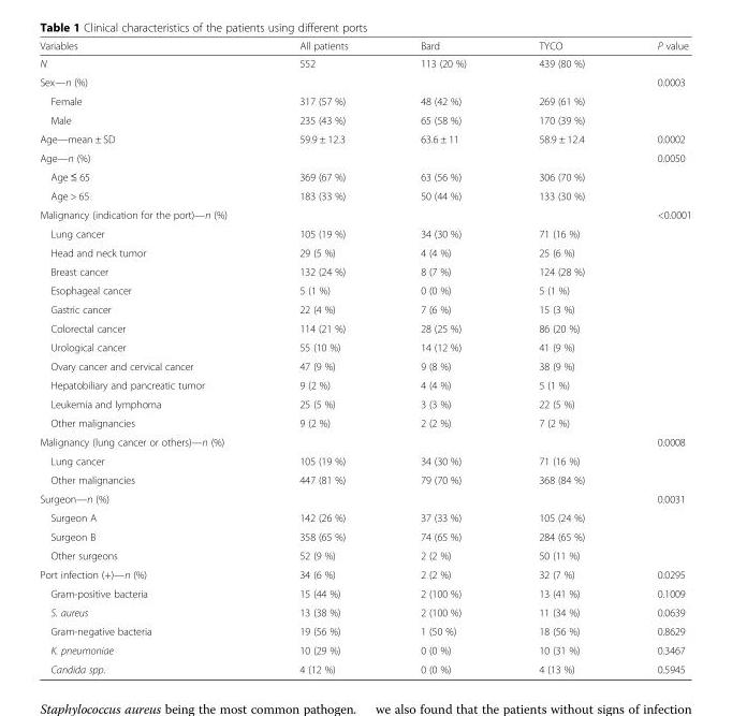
<table><thead><tr><td>Variables</td><td>All patients</td><td>Bard</td><td>TYCO</td><td>P value</td></tr></thead><tbody><tr><td>N</td><td>552</td><td>113 (20 %)</td><td>439 (80 %)</td><td></td></tr><tr><td>Sex—n (%)</td><td></td><td></td><td></td><td>0.0003</td></tr><tr><td>Female</td><td>317 (57 %)</td><td>48 (42 %)</td><td>269 (61 %)</td><td></td></tr><tr><td>Male</td><td>235 (43 %)</td><td>65 (58 %)</td><td>170 (39 %)</td><td></td></tr><tr><td>Age—mean ± SD</td><td>59.9 ± 12.3</td><td>63.6 ± 11</td><td>58.9 ± 12.4</td><td>0.0002</td></tr><tr><td>Age—n (%)</td><td></td><td></td><td></td><td>0.0050</td></tr><tr><td>Age ≤ 65</td><td>369 (67 %)</td><td>63 (56 %)</td><td>306 (70 %)</td><td></td></tr><tr><td>Age &gt; 65</td><td>183 (33 %)</td><td>50 (44 %)</td><td>133 (30 %)</td><td></td></tr><tr><td>Malignancy (indication for the port)—n (%)</td><td></td><td></td><td></td><td>&lt;0.0001</td></tr><tr><td>Lung cancer</td><td>105 (19 %)</td><td>34 (30 %)</td><td>71 (16 %)</td><td></td></tr><tr><td>Head and neck tumor</td><td>29 (5 %)</td><td>4 (4 %)</td><td>25 (6 %)</td><td></td></tr><tr><td>Breast cancer</td><td>132 (24 %)</td><td>8 (7 %)</td><td>124 (28 %)</td><td></td></tr><tr><td>Esophageal cancer</td><td>5 (1 %)</td><td>0 (0 %)</td><td>5 (1 %)</td><td></td></tr><tr><td>Gastric cancer</td><td>22 (4 %)</td><td>7 (6 %)</td><td>15 (3 %)</td><td></td></tr><tr><td>Colorectal cancer</td><td>114 (21 %)</td><td>28 (25 %)</td><td>86 (20 %)</td><td></td></tr><tr><td>Urological cancer</td><td>55 (10 %)</td><td>14 (12 %)</td><td>41 (9 %)</td><td></td></tr><tr><td>Ovary cancer and cervical cancer</td><td>47 (9 %)</td><td>9 (8 %)</td><td>38 (9 %)</td><td></td></tr><tr><td>Hepatobiliary and pancreatic tumor</td><td>9 (2 %)</td><td>4 (4 %)</td><td>5 (1 %)</td><td></td></tr><tr><td>Leukemia and lymphoma</td><td>25 (5 %)</td><td>3 (3 %)</td><td>22 (5 %)</td><td></td></tr><tr><td>Other malignancies</td><td>9 (2 %)</td><td>2 (2 %)</td><td>7 (2 %)</td><td></td></tr><tr><td>Malignancy (lung cancer or others)—n (%)</td><td></td><td></td><td></td><td>0.0008</td></tr><tr><td>Lung cancer</td><td>105 (19 %)</td><td>34 (30 %)</td><td>71 (16 %)</td><td></td></tr><tr><td>Other malignancies</td><td>447 (81 %)</td><td>79 (70 %)</td><td>368 (84 %)</td><td></td></tr><tr><td>Surgeon—n (%)</td><td></td><td></td><td></td><td>0.0031</td></tr><tr><td>Surgeon A</td><td>142 (26 %)</td><td>37 (33 %)</td><td>105 (24 %)</td><td></td></tr><tr><td>Surgeon B</td><td>358 (65 %)</td><td>74 (65 %)</td><td>284 (65 %)</td><td></td></tr><tr><td>Other surgeons</td><td>52 (9 %)</td><td>2 (2 %)</td><td>50 (11 %)</td><td></td></tr><tr><td>Port infection (+)—n (%)</td><td>34 (6 %)</td><td>2 (2 %)</td><td>32 (7 %)</td><td>0.0295</td></tr><tr><td>Gram-positive bacteria</td><td>15 (44 %)</td><td>2 (100 %)</td><td>13 (41 %)</td><td>0.1009</td></tr><tr><td>S. aureus</td><td>13 (38 %)</td><td>2 (100 %)</td><td>11 (34 %)</td><td>0.0639</td></tr><tr><td>Gram-negative bacteria</td><td>19 (56 %)</td><td>1 (50 %)</td><td>18 (56 %)</td><td>0.8629</td></tr><tr><td>K. pneumoniae</td><td>10 (29 %)</td><td>0 (0 %)</td><td>10 (31 %)</td><td>0.3467</td></tr><tr><td>Candida spp.</td><td>4 (12 %)</td><td>0 (0 %)</td><td>4 (13 %)</td><td>0.5945</td></tr></tbody></table>